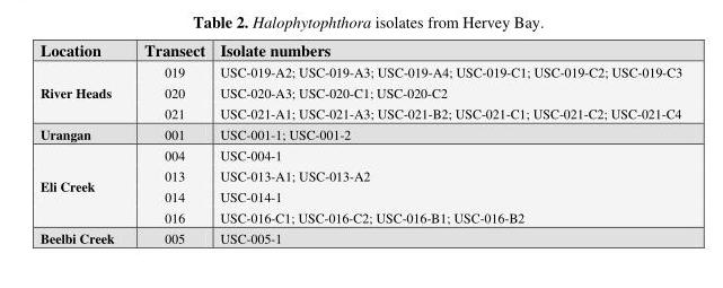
<table><thead><tr><td>Location</td><td>Transect</td><td>Isolate numbers</td></tr></thead><tbody><tr><td rowspan="3">River Heads</td><td>019</td><td>USC-019-A2; USC-019-A3; USC-019-A4; USC-019-C1; USC-019-C2; USC-019-C3</td></tr><tr><td>020</td><td>USC-020-A3; USC-020-C1; USC-020-C2</td></tr><tr><td>021</td><td>USC-021-A1; USC-021-A3; USC-021-B2; USC-021-C1; USC-021-C2; USC-021-C4</td></tr><tr><td>Urangan</td><td>001</td><td>USC-001-1; USC-001-2</td></tr><tr><td rowspan="4">Eli Creek</td><td>004</td><td>USC-004-1</td></tr><tr><td>013</td><td>USC-013-A1; USC-013-A2</td></tr><tr><td>014</td><td>USC-014-1</td></tr><tr><td>016</td><td>USC-016-C1; USC-016-C2; USC-016-B1; USC-016-B2</td></tr><tr><td>Beelbi Creek</td><td>005</td><td>USC-005-1</td></tr></tbody></table>